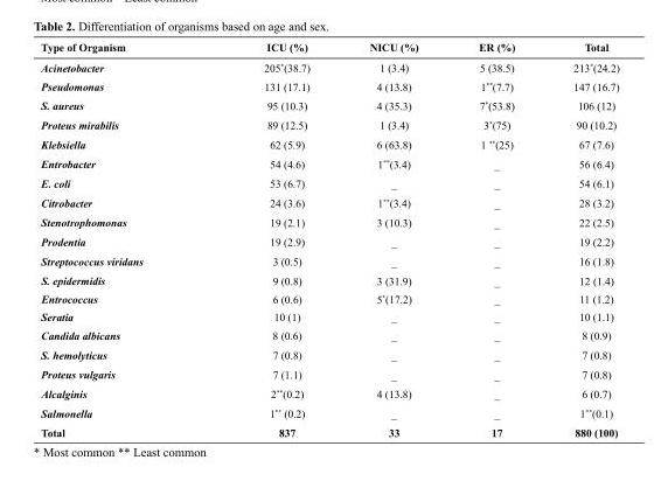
<table><thead><tr><td>Type of Organism</td><td>ICU (%)</td><td>NICU (%)</td><td>eR (%)</td><td>Total</td></tr></thead><tbody><tr><td>Acinetobacter</td><td>205*(38.7)</td><td>1 (3.4)</td><td>5 (38.5)</td><td>213*(24.2)</td></tr><tr><td>Pseudomonas</td><td>131 (17.1)</td><td>4 (13.8)</td><td>1**(7.7)</td><td>147 (16.7)</td></tr><tr><td>S. aureus</td><td>95 (10.3)</td><td>4 (35.3)</td><td>7*(53.8)</td><td>106 (12)</td></tr><tr><td>Proteus mirabilis</td><td>89 (12.5)</td><td>1 (3.4)</td><td>3*(75)</td><td>90 (10.2)</td></tr><tr><td>Klebsiella</td><td>62 (5.9)</td><td>6 (63.8)</td><td>1 **(25)</td><td>67 (7.6)</td></tr><tr><td>Entrobacter</td><td>54 (4.6)</td><td>1**(3.4)</td><td>_</td><td>56 (6.4)</td></tr><tr><td>E. coli</td><td>53 (6.7)</td><td>_</td><td>_</td><td>54 (6.1)</td></tr><tr><td>Citrobacter</td><td>24 (3.6)</td><td>1**(3.4)</td><td>_</td><td>28 (3.2)</td></tr><tr><td>Stenotrophomonas</td><td>19 (2.1)</td><td>3 (10.3)</td><td>_</td><td>22 (2.5)</td></tr><tr><td>Prodentia</td><td>19 (2.9)</td><td>_</td><td>_</td><td>19 (2.2)</td></tr><tr><td>Streptococcus viridans</td><td>3 (0.5)</td><td>_</td><td>_</td><td>16 (1.8)</td></tr><tr><td>S. epidermidis</td><td>9 (0.8)</td><td>3 (31.9)</td><td>_</td><td>12 (1.4)</td></tr><tr><td>Entrococcus</td><td>6 (0.6)</td><td>5*(17.2)</td><td>_</td><td>11 (1.2)</td></tr><tr><td>Seratia</td><td>10 (1)</td><td>_</td><td>_</td><td>10 (1.1)</td></tr><tr><td>Candida albicans</td><td>8 (0.6)</td><td>_</td><td>_</td><td>8 (0.9)</td></tr><tr><td>S. hemolyticus</td><td>7 (0.8)</td><td>_</td><td>_</td><td>7 (0.8)</td></tr><tr><td>Proteus vulgaris</td><td>7 (1.1)</td><td>_</td><td>_</td><td>7 (0.8)</td></tr><tr><td>Alcalginis</td><td>2**(0.2)</td><td>4 (13.8)</td><td>_</td><td>6 (0.7)</td></tr><tr><td>Salmonella</td><td>1** (0.2)</td><td>_</td><td>_</td><td>1**(0.1)</td></tr><tr><td>Total</td><td>837</td><td>33</td><td>17</td><td>880 (100)</td></tr></tbody></table>